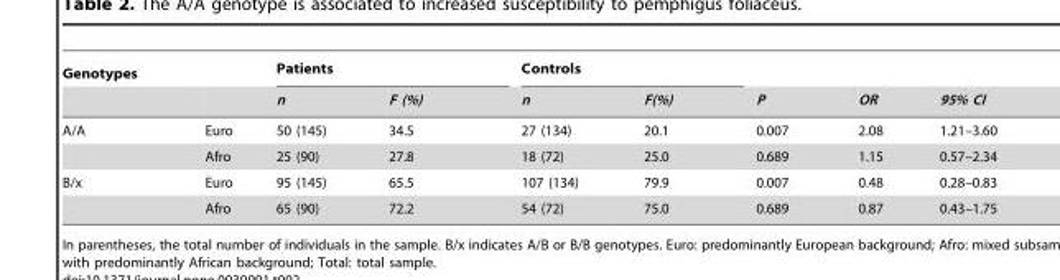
<table><thead><tr><td rowspan="2">Genotypes</td><td rowspan="2"></td><td colspan="2">Patients</td><td colspan="2">Controls</td><td rowspan="2">P</td><td rowspan="2">OR</td><td rowspan="2">95% CI</td></tr><tr><td>n</td><td>F (%)</td><td>n</td><td>F(%)</td></tr></thead><tbody><tr><td rowspan="2">A/A</td><td>Euro</td><td>50 (145)</td><td>34.5</td><td>27 (134)</td><td>20.1</td><td>0.007</td><td>2.08</td><td>1.21–3.60</td></tr><tr><td>Afro</td><td>25 (90)</td><td>27.8</td><td>18 (72)</td><td>25.0</td><td>0.689</td><td>1.15</td><td>0.57–2.34</td></tr><tr><td rowspan="2">B/x</td><td>Euro</td><td>95 (145)</td><td>65.5</td><td>107 (134)</td><td>79.9</td><td>0.007</td><td>0.48</td><td>0.28–0.83</td></tr><tr><td>Afro</td><td>65 (90)</td><td>72.2</td><td>54 (72)</td><td>75.0</td><td>0.689</td><td>0.87</td><td>0.43–1.75</td></tr></tbody></table>